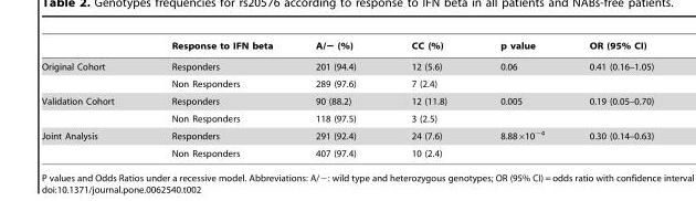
<table><thead><tr><td></td><td>Response to IFN beta</td><td>A/− (%)</td><td>CC (%)</td><td>p value</td><td>OR (95% CI)</td></tr></thead><tbody><tr><td rowspan="2">Original Cohort</td><td>Responders</td><td>201 (94.4)</td><td>12 (5.6)</td><td>0.06</td><td>0.41 (0.16–1.05)</td></tr><tr><td>Non Responders</td><td>289 (97.6)</td><td>7 (2.4)</td><td></td><td></td></tr><tr><td rowspan="2">Validation Cohort</td><td>Responders</td><td>90 (88.2)</td><td>12 (11.8)</td><td>0.005</td><td>0.19 (0.05–0.70)</td></tr><tr><td>Non Responders</td><td>118 (97.5)</td><td>3 (2.5)</td><td></td><td></td></tr><tr><td rowspan="2">Joint Analysis</td><td>Responders</td><td>291 (92.4)</td><td>24 (7.6)</td><td>8.88×10<sup>−4</sup></td><td>0.30 (0.14–0.63)</td></tr><tr><td>Non Responders</td><td>407 (97.4)</td><td>10 (2.4)</td><td></td><td></td></tr></tbody></table>